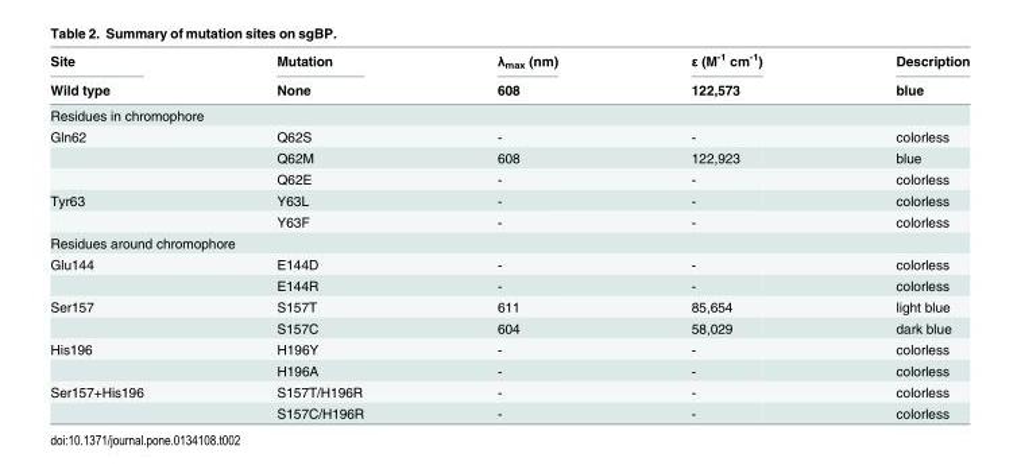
<table><thead><tr><td rowspan="2">Site Wild type</td><td rowspan="2">Mutation None</td><td rowspan="2">λ<sub>max</sub> (nm) 608</td><td rowspan="2">ε (M<sup>-1</sup> cm<sup>-1</sup>) 122,573</td><td rowspan="2">Description blue</td></tr><tr></tr></thead><tbody><tr><td colspan="5">Residues in chromophore</td></tr><tr><td rowspan="3">Gln62</td><td>Q62S</td><td>-</td><td>-</td><td>colorless</td></tr><tr><td>Q62M</td><td>608</td><td>122,923</td><td>blue</td></tr><tr><td>Q62E</td><td>-</td><td>-</td><td>colorless</td></tr><tr><td rowspan="2">Tyr63</td><td>Y63L</td><td>-</td><td>-</td><td>colorless</td></tr><tr><td>Y63F</td><td>-</td><td>-</td><td>colorless</td></tr><tr><td colspan="5">Residues around chromophore</td></tr><tr><td rowspan="2">Glu144</td><td>E144D</td><td>-</td><td>-</td><td>colorless</td></tr><tr><td>E144R</td><td>-</td><td>-</td><td>colorless</td></tr><tr><td rowspan="2">Ser157</td><td>S157T</td><td>611</td><td>85,654</td><td>light blue</td></tr><tr><td>S157C</td><td>604</td><td>58,029</td><td>dark blue</td></tr><tr><td rowspan="2">His196</td><td>H196Y</td><td>-</td><td>-</td><td>colorless</td></tr><tr><td>H196A</td><td>-</td><td>-</td><td>colorless</td></tr><tr><td rowspan="2">Ser157+His196</td><td>S157T/H196R</td><td>-</td><td>-</td><td>colorless</td></tr><tr><td>S157C/H196R</td><td>-</td><td>-</td><td>colorless</td></tr></tbody></table>